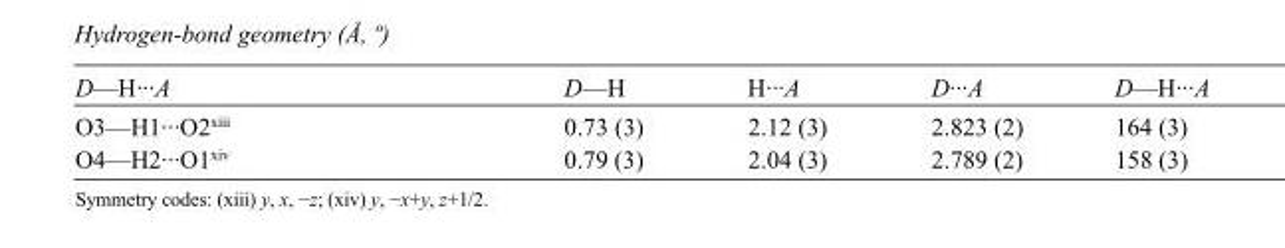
<table><tbody><tr><td>D—H···A</td><td>D—H</td><td>H···A</td><td>D···A</td><td>D—H···A</td></tr><tr><td>O3—H1···O2<sup>xiii</sup></td><td>0.73 (3)</td><td>2.12 (3)</td><td>2.823 (2)</td><td>164 (3)</td></tr><tr><td>O4—H2···O1<sup>xiv</sup></td><td>0.79 (3)</td><td>2.04 (3)</td><td>2.789 (2)</td><td>158 (3)</td></tr></tbody></table>